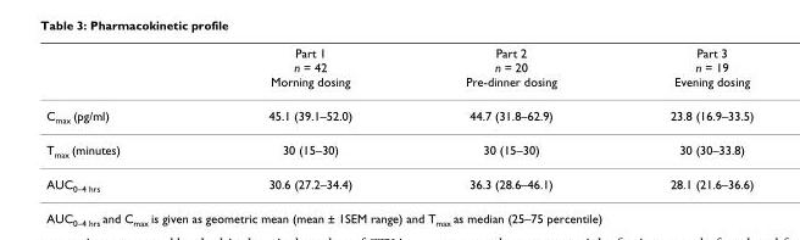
<table><thead><tr><td></td><td>Part 1 n = 42 Morning dosing</td><td>Part 2 n = 20 Pre-dinner dosing</td><td>Part 3 n = 19 Evening dosing</td></tr></thead><tbody><tr><td>C<sub>max</sub> (pg/ml)</td><td>45.1 (39.1–52.0)</td><td>44.7 (31.8–62.9)</td><td>23.8 (16.9–33.5)</td></tr><tr><td>T<sub>max</sub> (minutes)</td><td>30 (15–30)</td><td>30 (15–30)</td><td>30 (30–33.8)</td></tr><tr><td>AUC<sub>0–4 hrs</sub></td><td>30.6 (27.2–34.4)</td><td>36.3 (28.6–46.1)</td><td>28.1 (21.6–36.6)</td></tr></tbody></table>